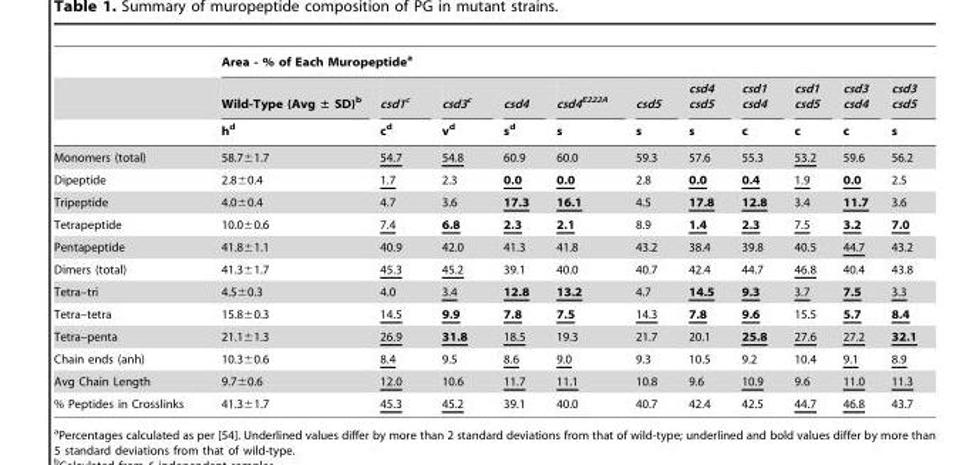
<table><thead><tr><td rowspan="3"></td><td colspan="11">Area - % of Each Muropeptide<sup>a</sup></td></tr><tr><td rowspan="2">Wild-Type (Avg ± SD)<sup>b</sup> h<sup>d</sup></td><td rowspan="2">csd1c c<sup>d</sup></td><td rowspan="2">csd3c v<sup>d</sup></td><td rowspan="2">csd4 s<sup>d</sup></td><td rowspan="2">csd4<sup>E222A</sup> s</td><td rowspan="2">csd5 s</td><td rowspan="2">csd4 csd5 s</td><td rowspan="2">csd1 csd4 c</td><td rowspan="2">csd1 csd5 c</td><td rowspan="2">csd3 csd4 c</td><td rowspan="2">csd3 csd5 s</td></tr><tr></tr></thead><tbody><tr><td>Monomers (total)</td><td>58.7±1.7</td><td>54.7</td><td>54.8</td><td>60.9</td><td>60.0</td><td>59.3</td><td>57.6</td><td>55.3</td><td>53.2</td><td>59.6</td><td>56.2</td></tr><tr><td>Dipeptide</td><td>2.8±0.4</td><td>1.7</td><td>2.3</td><td>0.0</td><td>0.0</td><td>2.8</td><td>0.0</td><td>0.4</td><td>1.9</td><td>0.0</td><td>2.5</td></tr><tr><td>Tripeptide</td><td>4.0±0.4</td><td>4.7</td><td>3.6</td><td>17.3</td><td>16.1</td><td>4.5</td><td>17.8</td><td>12.8</td><td>3.4</td><td>11.7</td><td>3.6</td></tr><tr><td>Tetrapeptide</td><td>10.0±0.6</td><td>7.4</td><td>6.8</td><td>2.3</td><td>2.1</td><td>8.9</td><td>1.4</td><td>2.3</td><td>7.5</td><td>3.2</td><td>7.0</td></tr><tr><td>Pentapeptide</td><td>41.8±1.1</td><td>40.9</td><td>42.0</td><td>41.3</td><td>41.8</td><td>43.2</td><td>38.4</td><td>39.8</td><td>40.5</td><td>44.7</td><td>43.2</td></tr><tr><td>Dimers (total)</td><td>41.3±1.7</td><td>45.3</td><td>45.2</td><td>39.1</td><td>40.0</td><td>40.7</td><td>42.4</td><td>44.7</td><td>46.8</td><td>40.4</td><td>43.8</td></tr><tr><td>Tetra–tri</td><td>4.5±0.3</td><td>4.0</td><td>3.4</td><td>12.8</td><td>13.2</td><td>4.7</td><td>14.5</td><td>9.3</td><td>3.7</td><td>7.5</td><td>3.3</td></tr><tr><td>Tetra–tetra</td><td>15.8±0.3</td><td>14.5</td><td>9.9</td><td>7.8</td><td>7.5</td><td>14.3</td><td>7.8</td><td>9.6</td><td>15.5</td><td>5.7</td><td>8.4</td></tr><tr><td>Tetra–penta</td><td>21.1±1.3</td><td>26.9</td><td>31.8</td><td>18.5</td><td>19.3</td><td>21.7</td><td>20.1</td><td>25.8</td><td>27.6</td><td>27.2</td><td>32.1</td></tr><tr><td>Chain ends (anh)</td><td>10.3±0.6</td><td>8.4</td><td>9.5</td><td>8.6</td><td>9.0</td><td>9.3</td><td>10.5</td><td>9.2</td><td>10.4</td><td>9.1</td><td>8.9</td></tr><tr><td>Avg Chain Length</td><td>9.7±0.6</td><td>12.0</td><td>10.6</td><td>11.7</td><td>11.1</td><td>10.8</td><td>9.6</td><td>10.9</td><td>9.6</td><td>11.0</td><td>11.3</td></tr><tr><td>% Peptides in Crosslinks</td><td>41.3±1.7</td><td>45.3</td><td>45.2</td><td>39.1</td><td>40.0</td><td>40.7</td><td>42.4</td><td>42.5</td><td>44.7</td><td>46.8</td><td>43.7</td></tr></tbody></table>